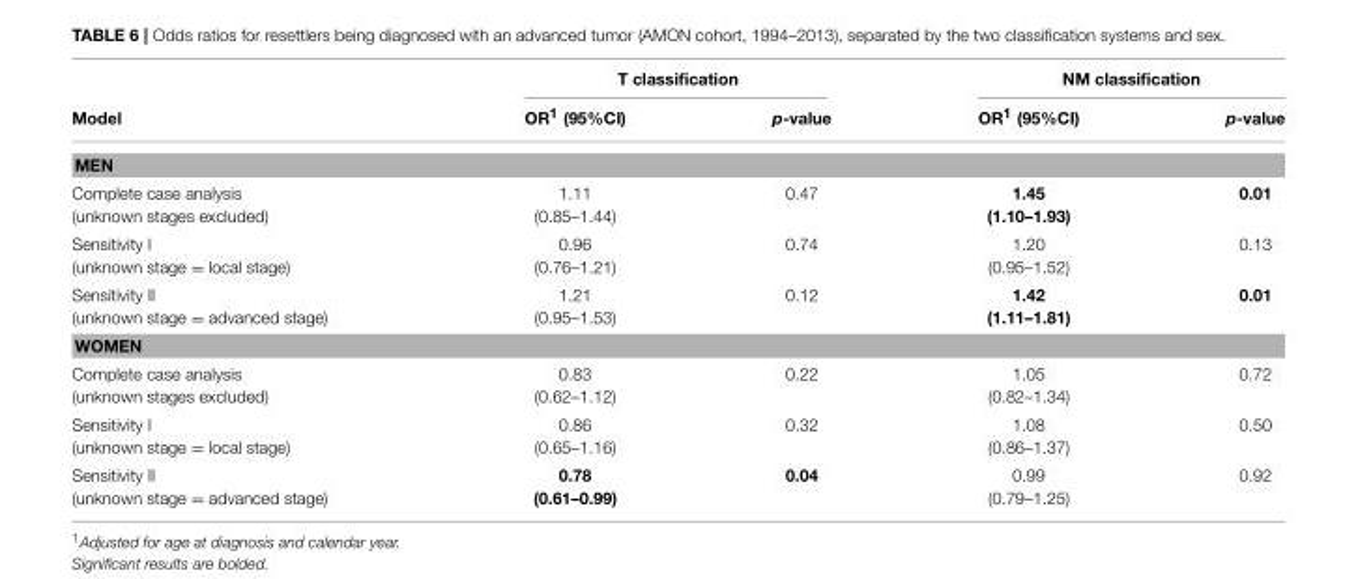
<table><thead><tr><td rowspan="2">Model</td><td colspan="2">T classification</td><td colspan="2">NM classification</td></tr><tr><td>OR<sup>1</sup> (95%CI)</td><td>p-value</td><td>OR<sup>1</sup> (95%CI)</td><td>p-value</td></tr></thead><tbody><tr><td colspan="5">MEN</td></tr><tr><td>Complete case analysis (unknown stages excluded)</td><td>1.11 (0.85–1.44)</td><td>0.47</td><td>1.45 (1.10–1.93)</td><td>0.01</td></tr><tr><td>Sensitivity I (unknown stage = local stage)</td><td>0.96 (0.76–1.21)</td><td>0.74</td><td>1.20 (0.95–1.52)</td><td>0.13</td></tr><tr><td>Sensitivity II (unknown stage = advanced stage)</td><td>1.21 (0.95–1.53)</td><td>0.12</td><td>1.42 (1.11–1.81)</td><td>0.01</td></tr><tr><td colspan="5">WOMEN</td></tr><tr><td>Complete case analysis (unknown stages excluded)</td><td>0.83 (0.62–1.12)</td><td>0.22</td><td>1.05 (0.82–1.34)</td><td>0.72</td></tr><tr><td>Sensitivity I (unknown stage = local stage)</td><td>0.86 (0.65–1.16)</td><td>0.32</td><td>1.08 (0.86–1.37)</td><td>0.50</td></tr><tr><td>Sensitivity II (unknown stage = advanced stage)</td><td>0.78 (0.61–0.99)</td><td>0.04</td><td>0.99 (0.79–1.25)</td><td>0.92</td></tr></tbody></table>